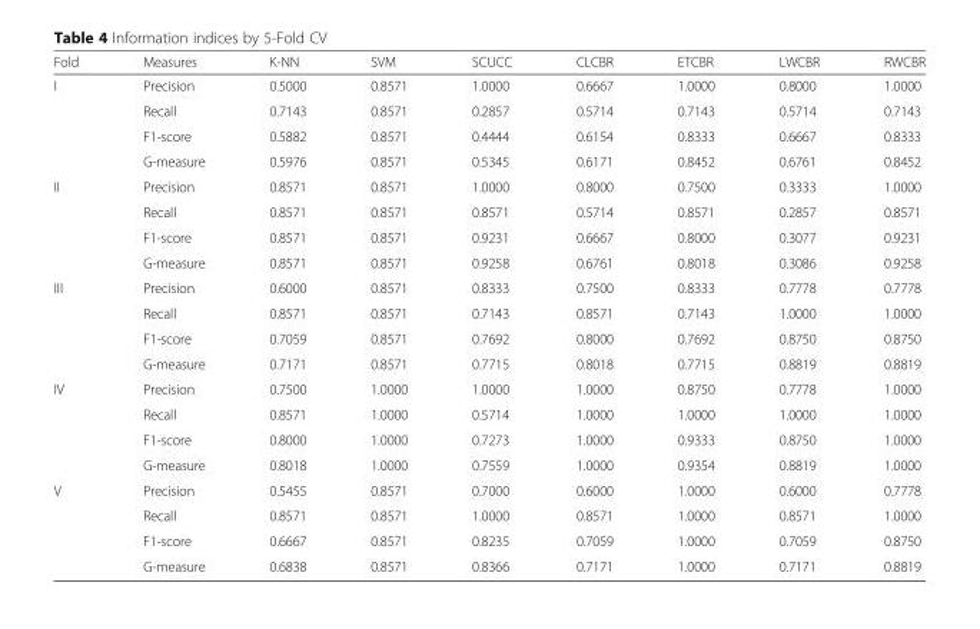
<table><thead><tr><td>Fold</td><td>Measures</td><td>K-NN</td><td>SVM</td><td>SCUCC</td><td>CLCBR</td><td>ETCBR</td><td>LWCBR</td><td>RWCBR</td></tr></thead><tbody><tr><td rowspan="4">I</td><td>Precision</td><td>0.5000</td><td>0.8571</td><td>1.0000</td><td>0.6667</td><td>1.0000</td><td>0.8000</td><td>1.0000</td></tr><tr><td>Recall</td><td>0.7143</td><td>0.8571</td><td>0.2857</td><td>0.5714</td><td>0.7143</td><td>0.5714</td><td>0.7143</td></tr><tr><td>F1-score</td><td>0.5882</td><td>0.8571</td><td>0.4444</td><td>0.6154</td><td>0.8333</td><td>0.6667</td><td>0.8333</td></tr><tr><td>G-measure</td><td>0.5976</td><td>0.8571</td><td>0.5345</td><td>0.6171</td><td>0.8452</td><td>0.6761</td><td>0.8452</td></tr><tr><td rowspan="4">II</td><td>Precision</td><td>0.8571</td><td>0.8571</td><td>1.0000</td><td>0.8000</td><td>0.7500</td><td>0.3333</td><td>1.0000</td></tr><tr><td>Recall</td><td>0.8571</td><td>0.8571</td><td>0.8571</td><td>0.5714</td><td>0.8571</td><td>0.2857</td><td>0.8571</td></tr><tr><td>F1-score</td><td>0.8571</td><td>0.8571</td><td>0.9231</td><td>0.6667</td><td>0.8000</td><td>0.3077</td><td>0.9231</td></tr><tr><td>G-measure</td><td>0.8571</td><td>0.8571</td><td>0.9258</td><td>0.6761</td><td>0.8018</td><td>0.3086</td><td>0.9258</td></tr><tr><td rowspan="4">III</td><td>Precision</td><td>0.6000</td><td>0.8571</td><td>0.8333</td><td>0.7500</td><td>0.8333</td><td>0.7778</td><td>0.7778</td></tr><tr><td>Recall</td><td>0.8571</td><td>0.8571</td><td>0.7143</td><td>0.8571</td><td>0.7143</td><td>1.0000</td><td>1.0000</td></tr><tr><td>F1-score</td><td>0.7059</td><td>0.8571</td><td>0.7692</td><td>0.8000</td><td>0.7692</td><td>0.8750</td><td>0.8750</td></tr><tr><td>G-measure</td><td>0.7171</td><td>0.8571</td><td>0.7715</td><td>0.8018</td><td>0.7715</td><td>0.8819</td><td>0.8819</td></tr><tr><td rowspan="4">IV</td><td>Precision</td><td>0.7500</td><td>1.0000</td><td>1.0000</td><td>1.0000</td><td>0.8750</td><td>0.7778</td><td>1.0000</td></tr><tr><td>Recall</td><td>0.8571</td><td>1.0000</td><td>0.5714</td><td>1.0000</td><td>1.0000</td><td>1.0000</td><td>1.0000</td></tr><tr><td>F1-score</td><td>0.8000</td><td>1.0000</td><td>0.7273</td><td>1.0000</td><td>0.9333</td><td>0.8750</td><td>1.0000</td></tr><tr><td>G-measure</td><td>0.8018</td><td>1.0000</td><td>0.7559</td><td>1.0000</td><td>0.9354</td><td>0.8819</td><td>1.0000</td></tr><tr><td rowspan="4">V</td><td>Precision</td><td>0.5455</td><td>0.8571</td><td>0.7000</td><td>0.6000</td><td>1.0000</td><td>0.6000</td><td>0.7778</td></tr><tr><td>Recall</td><td>0.8571</td><td>0.8571</td><td>1.0000</td><td>0.8571</td><td>1.0000</td><td>0.8571</td><td>1.0000</td></tr><tr><td>F1-score</td><td>0.6667</td><td>0.8571</td><td>0.8235</td><td>0.7059</td><td>1.0000</td><td>0.7059</td><td>0.8750</td></tr><tr><td>G-measure</td><td>0.6838</td><td>0.8571</td><td>0.8366</td><td>0.7171</td><td>1.0000</td><td>0.7171</td><td>0.8819</td></tr></tbody></table>